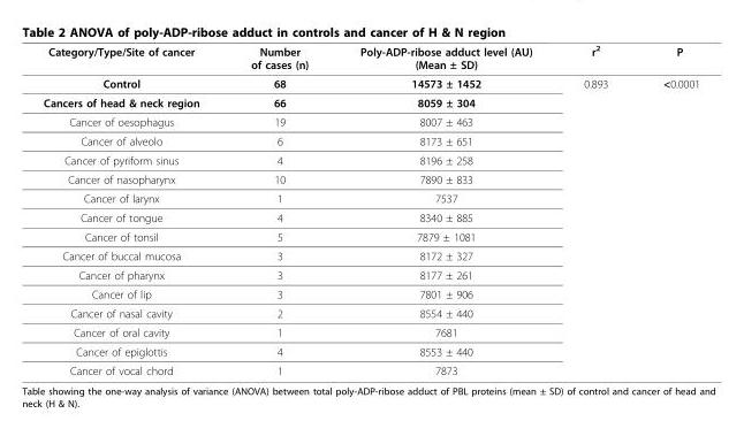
<table><thead><tr><td>Category/Type/Site of cancer</td><td>Number of cases (n)</td><td>Poly-ADP-ribose adduct level (AU) (Mean ± SD)</td><td>r<sup>2</sup></td><td>P</td></tr></thead><tbody><tr><td>Control</td><td>68</td><td>14573 ± 1452</td><td>0.893</td><td>&lt;0.0001</td></tr><tr><td>Cancers of head &amp; neck region</td><td>66</td><td>8059 ± 304</td><td></td><td></td></tr><tr><td>Cancer of oesophagus</td><td>19</td><td>8007 ± 463</td><td></td><td></td></tr><tr><td>Cancer of alveolo</td><td>6</td><td>8173 ± 651</td><td></td><td></td></tr><tr><td>Cancer of pyriform sinus</td><td>4</td><td>8196 ± 258</td><td></td><td></td></tr><tr><td>Cancer of nasopharynx</td><td>10</td><td>7890 ± 833</td><td></td><td></td></tr><tr><td>Cancer of larynx</td><td>1</td><td>7537</td><td></td><td></td></tr><tr><td>Cancer of tongue</td><td>4</td><td>8340 ± 885</td><td></td><td></td></tr><tr><td>Cancer of tonsil</td><td>5</td><td>7879 ± 1081</td><td></td><td></td></tr><tr><td>Cancer of buccal mucosa</td><td>3</td><td>8172 ± 327</td><td></td><td></td></tr><tr><td>Cancer of pharynx</td><td>3</td><td>8177 ± 261</td><td></td><td></td></tr><tr><td>Cancer of lip</td><td>3</td><td>7801 ± 906</td><td></td><td></td></tr><tr><td>Cancer of nasal cavity</td><td>2</td><td>8554 ± 440</td><td></td><td></td></tr><tr><td>Cancer of oral cavity</td><td>1</td><td>7681</td><td></td><td></td></tr><tr><td>Cancer of epiglottis</td><td>4</td><td>8553 ± 440</td><td></td><td></td></tr><tr><td>Cancer of vocal chord</td><td>1</td><td>7873</td><td></td><td></td></tr></tbody></table>